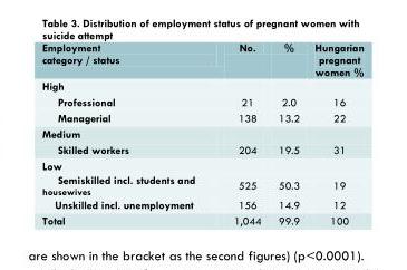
<table><thead><tr><td>Employment category / status</td><td>No.</td><td>%</td><td>Hungarian pregnant women %</td></tr></thead><tbody><tr><td colspan="4">High</td></tr><tr><td>Professional</td><td>21</td><td>2.0</td><td>16</td></tr><tr><td>Managerial</td><td>138</td><td>13.2</td><td>22</td></tr><tr><td colspan="4">Medium</td></tr><tr><td>Skilled workers</td><td>204</td><td>19.5</td><td>31</td></tr><tr><td colspan="4">Low</td></tr><tr><td>Semiskilled incl. students and housewives</td><td>525</td><td>50.3</td><td>19</td></tr><tr><td>Unskilled incl. unemployment</td><td>156</td><td>14.9</td><td>12</td></tr><tr><td>Total</td><td>1,044</td><td>99.9</td><td>100</td></tr></tbody></table>